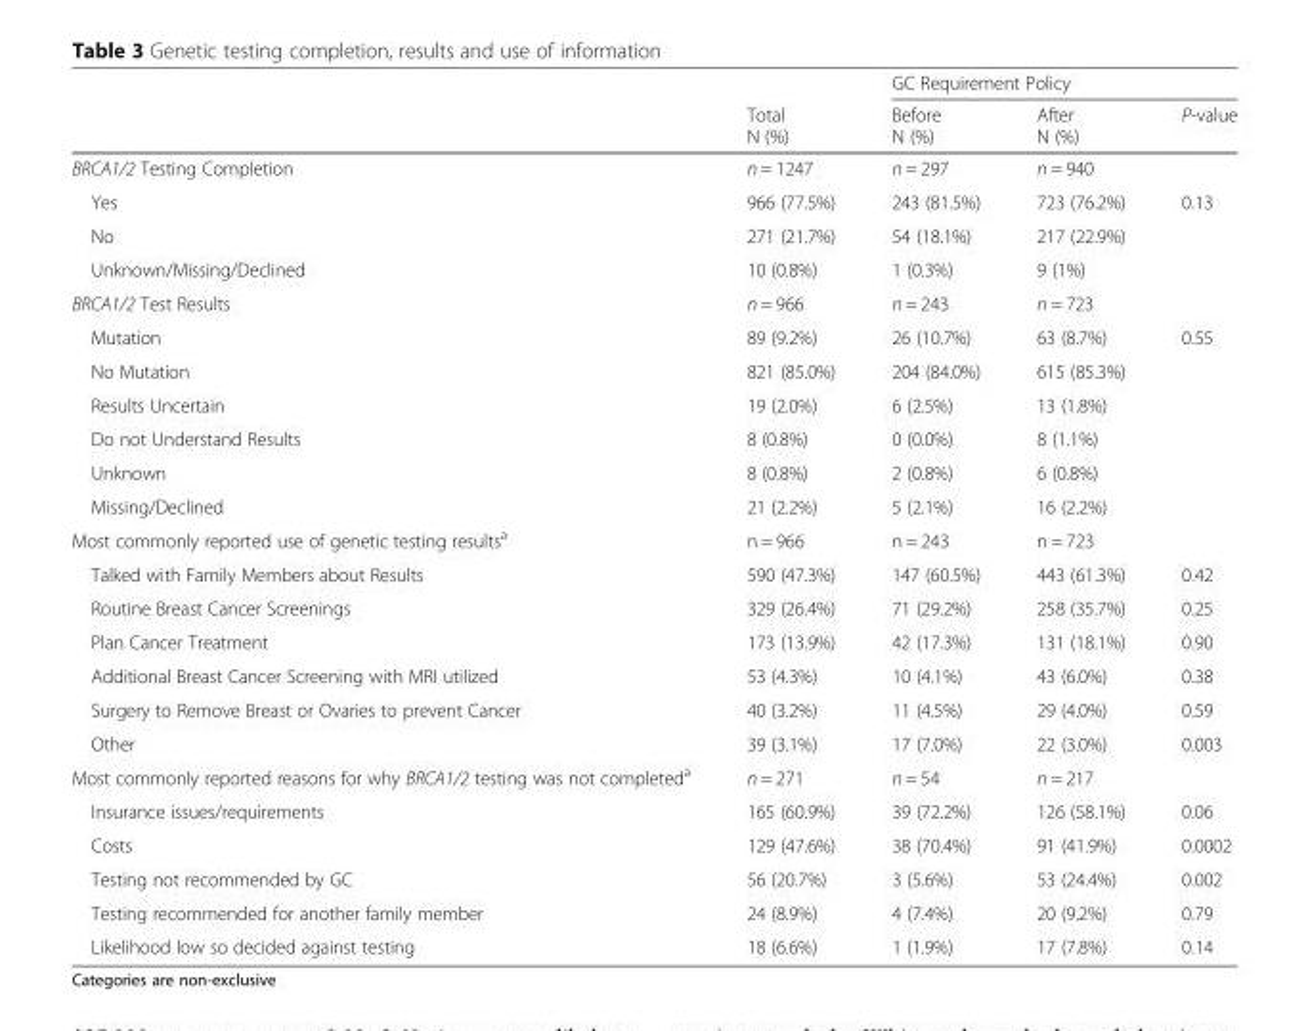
<table><thead><tr><td rowspan="2"></td><td rowspan="2">Total N (%)</td><td colspan="3">GC Requirement Policy</td></tr><tr><td>Before N (%)</td><td>After N (%)</td><td>P-value</td></tr></thead><tbody><tr><td>BRCA1/2 Testing Completion</td><td>n = 1247</td><td>n = 297</td><td>n = 940</td><td></td></tr><tr><td>Yes</td><td>966 (77.5%)</td><td>243 (81.5%)</td><td>723 (76.2%)</td><td rowspan="3">0.13</td></tr><tr><td>No</td><td>271 (21.7%)</td><td>54 (18.1%)</td><td>217 (22.9%)</td></tr><tr><td>Unknown/Missing/Declined</td><td>10 (0.8%)</td><td>1 (0.3%)</td><td>9 (1%)</td></tr><tr><td>BRCA1/2 Test Results</td><td>n = 966</td><td>n = 243</td><td>n = 723</td><td></td></tr><tr><td>Mutation</td><td>89 (9.2%)</td><td>26 (10.7%)</td><td>63 (8.7%)</td><td rowspan="6">0.55</td></tr><tr><td>No Mutation</td><td>821 (85.0%)</td><td>204 (84.0%)</td><td>615 (85.3%)</td></tr><tr><td>Results Uncertain</td><td>19 (2.0%)</td><td>6 (2.5%)</td><td>13 (1.8%)</td></tr><tr><td>Do not Understand Results</td><td>8 (0.8%)</td><td>0 (0.0%)</td><td>8 (1.1%)</td></tr><tr><td>Unknown</td><td>8 (0.8%)</td><td>2 (0.8%)</td><td>6 (0.8%)</td></tr><tr><td>Missing/Declined</td><td>21 (2.2%)</td><td>5 (2.1%)</td><td>16 (2.2%)</td></tr><tr><td>Most commonly reported use of genetic testing results<sup>a</sup></td><td>n = 966</td><td>n = 243</td><td>n = 723</td><td></td></tr><tr><td>Talked with Family Members about Results</td><td>590 (47.3%)</td><td>147 (60.5%)</td><td>443 (61.3%)</td><td>0.42</td></tr><tr><td>Routine Breast Cancer Screenings</td><td>329 (26.4%)</td><td>71 (29.2%)</td><td>258 (35.7%)</td><td>0.25</td></tr><tr><td>Plan Cancer Treatment</td><td>173 (13.9%)</td><td>42 (17.3%)</td><td>131 (18.1%)</td><td>0.90</td></tr><tr><td>Additional Breast Cancer Screening with MRI utilized</td><td>53 (4.3%)</td><td>10 (4.1%)</td><td>43 (6.0%)</td><td>0.38</td></tr><tr><td>Surgery to Remove Breast or Ovaries to prevent Cancer</td><td>40 (3.2%)</td><td>11 (4.5%)</td><td>29 (4.0%)</td><td>0.59</td></tr><tr><td>Other</td><td>39 (3.1%)</td><td>17 (7.0%)</td><td>22 (3.0%)</td><td>0.003</td></tr><tr><td>Most commonly reported reasons for why BRCA1/2 testing was not completed<sup>a</sup></td><td>n = 271</td><td>n = 54</td><td>n = 217</td><td></td></tr><tr><td>Insurance issues/requirements</td><td>165 (60.9%)</td><td>39 (72.2%)</td><td>126 (58.1%)</td><td>0.06</td></tr><tr><td>Costs</td><td>129 (47.6%)</td><td>38 (70.4%)</td><td>91 (41.9%)</td><td>0.0002</td></tr><tr><td>Testing not recommended by GC</td><td>56 (20.7%)</td><td>3 (5.6%)</td><td>53 (24.4%)</td><td>0.002</td></tr><tr><td>Testing recommended for another family member</td><td>24 (8.9%)</td><td>4 (7.4%)</td><td>20 (9.2%)</td><td>0.79</td></tr><tr><td>Likelihood low so decided against testing</td><td>18 (6.6%)</td><td>1 (1.9%)</td><td>17 (7.8%)</td><td>0.14</td></tr></tbody></table>